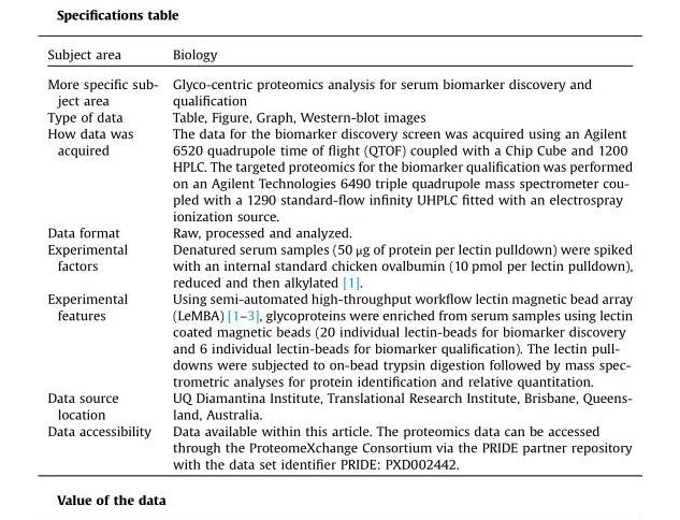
<table><tbody><tr><td>Subject area</td><td>Biology</td></tr><tr><td>More specific sub- ject area</td><td>Glyco-centric proteomics analysis for serum biomarker discovery and qualification</td></tr><tr><td>Type of data</td><td>Table, Figure, Graph, Western-blot images</td></tr><tr><td>How data was acquired</td><td>The data for the biomarker discovery screen was acquired using an Agilent 6520 quadrupole time of flight (QTOF) coupled with a Chip Cube and 1200 HPLC. The targeted proteomics for the biomarker qualification was performed on an Agilent Technologies 6490 triple quadrupole mass spectrometer cou- pled with a 1290 standard-flow infinity UHPLC fitted with an electrospray ionization source.</td></tr><tr><td>Data format</td><td>Raw, processed and analyzed.</td></tr><tr><td>Experimental factors</td><td>Denatured serum samples (50 μg of protein per lectin pulldown) were spiked with an internal standard chicken ovalbumin (10 pmol per lectin pulldown), reduced and then alkylated [1].</td></tr><tr><td>Experimental features</td><td>Using semi-automated high-throughput workflow lectin magnetic bead array (LeMBA) [1–3], glycoproteins were enriched from serum samples using lectin coated magnetic beads (20 individual lectin-beads for biomarker discovery and 6 individual lectin-beads for biomarker qualification). The lectin pull- downs were subjected to on-bead trypsin digestion followed by mass spec- trometric analyses for protein identification and relative quantitation.</td></tr><tr><td>Data source location</td><td>UQ Diamantina Institute, Translational Research Institute, Brisbane, Queens- land, Australia.</td></tr><tr><td>Data accessibility</td><td>Data available within this article. The proteomics data can be accessed through the ProteomeXchange Consortium via the PRIDE partner repository with the data set identifier PRIDE: PXD002442.</td></tr></tbody></table>